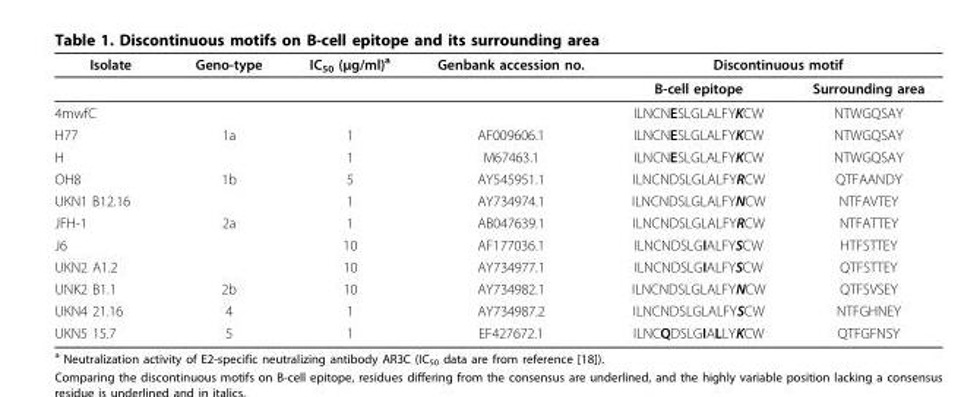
<table><thead><tr><td rowspan="2">Isolate</td><td rowspan="2">Geno-type</td><td rowspan="2">IC<sub>50</sub> (µg/ml)<sup>a</sup></td><td rowspan="2">Genbank accession no.</td><td colspan="2">Discontinuous motif</td></tr><tr><td>B-cell epitope</td><td>Surrounding area</td></tr></thead><tbody><tr><td>4mwfC</td><td></td><td></td><td></td><td>ILNCNESLGLALFYKCW</td><td>NTWGQSAY</td></tr><tr><td>H77</td><td>1a</td><td>1</td><td>AF009606.1</td><td>ILNCNESLGLALFYKCW</td><td>NTWGQSAY</td></tr><tr><td>H</td><td></td><td>1</td><td>M67463.1</td><td>ILNCNESLGLALFYKCW</td><td>NTWGQSAY</td></tr><tr><td>OH8</td><td>1b</td><td>5</td><td>AY545951.1</td><td>ILNCNDSLGLALFYRCW</td><td>QTFAANDY</td></tr><tr><td>UKN1 B12.16</td><td></td><td>1</td><td>AY734974.1</td><td>ILNCNDSLGLALFYNCW</td><td>NTFAVTEY</td></tr><tr><td>JFH-1</td><td>2a</td><td>1</td><td>AB047639.1</td><td>ILNCNDSLGLALFYRCW</td><td>NTFATTEY</td></tr><tr><td>J6</td><td></td><td>10</td><td>AF177036.1</td><td>ILNCNDSLGIALFYSCW</td><td>HTFSTTEY</td></tr><tr><td>UKN2 A1.2</td><td></td><td>10</td><td>AY734977.1</td><td>ILNCNDSLGIALFYSCW</td><td>QTFSTTEY</td></tr><tr><td>UNK2 B1.1</td><td>2b</td><td>10</td><td>AY734982.1</td><td>ILNCNDSLGLALFYNCW</td><td>QTFSVSEY</td></tr><tr><td>UKN4 21.16</td><td>4</td><td>1</td><td>AY734987.2</td><td>ILNCNDSLGLALFYSCW</td><td>NTFGHNEY</td></tr><tr><td>UKN5 15.7</td><td>5</td><td>1</td><td>EF427672.1</td><td>ILNCQDSLGIALLYKCW</td><td>QTFGFNSY</td></tr></tbody></table>